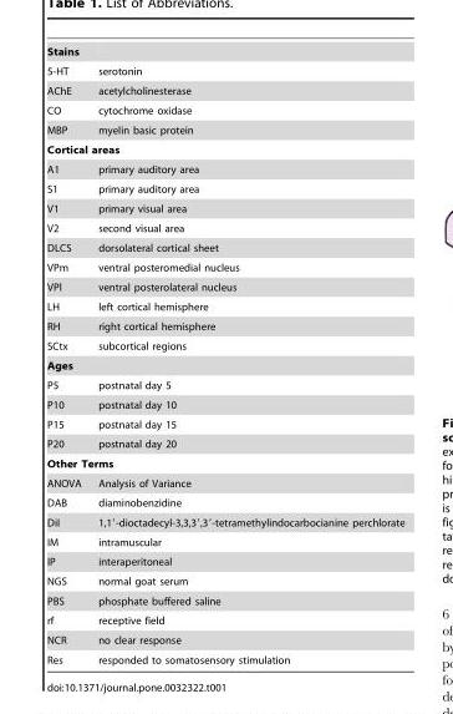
<table><tbody><tr><td colspan="2">Stains</td></tr><tr><td>5-HT</td><td>serotonin</td></tr><tr><td>AChE</td><td>acetylcholinesterase</td></tr><tr><td>CO</td><td>cytochrome oxidase</td></tr><tr><td>MBP</td><td>myelin basic protein</td></tr><tr><td colspan="2">Cortical areas</td></tr><tr><td>A1</td><td>primary auditory area</td></tr><tr><td>S1</td><td>primary auditory area</td></tr><tr><td>V1</td><td>primary visual area</td></tr><tr><td>V2</td><td>second visual area</td></tr><tr><td>DLCS</td><td>dorsolateral cortical sheet</td></tr><tr><td>VPm</td><td>ventral posteromedial nucleus</td></tr><tr><td>VPl</td><td>ventral posterolateral nucleus</td></tr><tr><td>LH</td><td>left cortical hemisphere</td></tr><tr><td>RH</td><td>right cortical hemisphere</td></tr><tr><td>SCtx</td><td>subcortical regions</td></tr><tr><td colspan="2">Ages</td></tr><tr><td>P5</td><td>postnatal day 5</td></tr><tr><td>P10</td><td>postnatal day 10</td></tr><tr><td>P15</td><td>postnatal day 15</td></tr><tr><td>P20</td><td>postnatal day 20</td></tr><tr><td colspan="2">Other Terms</td></tr><tr><td>ANOVA</td><td>Analysis of Variance</td></tr><tr><td>DAB</td><td>diaminobenzidine</td></tr><tr><td>DiI</td><td>1,1′-dioctadecyl-3,3,3′,3′-tetramethylindocarbocianine perchlorate</td></tr><tr><td>IM</td><td>intramuscular</td></tr><tr><td>IP</td><td>interaperitoneal</td></tr><tr><td>NGS</td><td>normal goat serum</td></tr><tr><td>PBS</td><td>phosphate buffered saline</td></tr><tr><td>rf</td><td>receptive field</td></tr><tr><td>NCR</td><td>no clear response</td></tr><tr><td>Res</td><td>responded to somatosensory stimulation</td></tr></tbody></table>